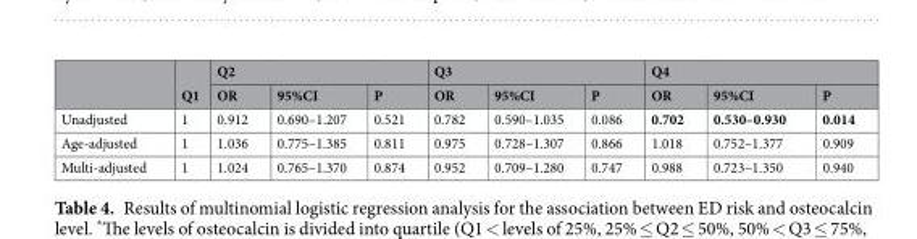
<table><thead><tr><td rowspan="2"></td><td rowspan="2">Q1</td><td colspan="3">Q2</td><td colspan="3">Q3</td><td colspan="3">Q4</td></tr><tr><td>OR</td><td>95%CI</td><td>P</td><td>OR</td><td>95%CI</td><td>P</td><td>OR</td><td>95%CI</td><td>P</td></tr></thead><tbody><tr><td>Unadjusted</td><td>1</td><td>0.912</td><td>0.690–1.207</td><td>0.521</td><td>0.782</td><td>0.590–1.035</td><td>0.086</td><td>0.702</td><td>0.530–0.930</td><td>0.014</td></tr><tr><td>Age-adjusted</td><td>1</td><td>1.036</td><td>0.775–1.385</td><td>0.811</td><td>0.975</td><td>0.728–1.307</td><td>0.866</td><td>1.018</td><td>0.752–1.377</td><td>0.909</td></tr><tr><td>Multi-adjusted</td><td>1</td><td>1.024</td><td>0.765–1.370</td><td>0.874</td><td>0.952</td><td>0.709–1.280</td><td>0.747</td><td>0.988</td><td>0.723–1.350</td><td>0.940</td></tr></tbody></table>